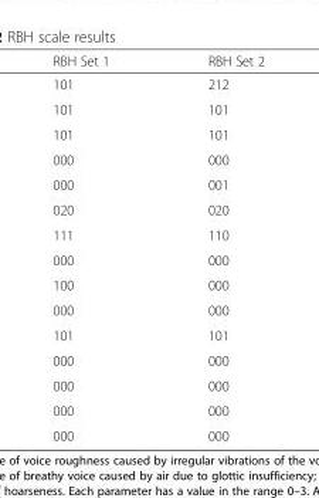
<table><thead><tr><td>RBH Set 1</td><td>RBH Set 2</td></tr></thead><tbody><tr><td>101</td><td>212</td></tr><tr><td>101</td><td>101</td></tr><tr><td>101</td><td>101</td></tr><tr><td>000</td><td>000</td></tr><tr><td>000</td><td>001</td></tr><tr><td>020</td><td>020</td></tr><tr><td>111</td><td>110</td></tr><tr><td>000</td><td>000</td></tr><tr><td>100</td><td>000</td></tr><tr><td>000</td><td>000</td></tr><tr><td>101</td><td>101</td></tr><tr><td>000</td><td>000</td></tr><tr><td>000</td><td>000</td></tr><tr><td>000</td><td>000</td></tr><tr><td>000</td><td>000</td></tr></tbody></table>